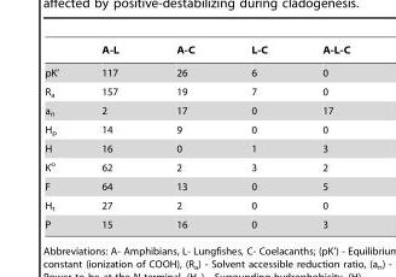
<table><thead><tr><td></td><td>A-L</td><td>A-C</td><td>L-C</td><td>A-L-C</td></tr></thead><tbody><tr><td>pK’</td><td>117</td><td>26</td><td>6</td><td>0</td></tr><tr><td>R<sub>a</sub></td><td>157</td><td>19</td><td>7</td><td>0</td></tr><tr><td>a<sub>n</sub></td><td>2</td><td>17</td><td>0</td><td>17</td></tr><tr><td>H<sub>p</sub></td><td>14</td><td>9</td><td>0</td><td>0</td></tr><tr><td>H</td><td>16</td><td>0</td><td>1</td><td>3</td></tr><tr><td>K<sup>o</sup></td><td>62</td><td>2</td><td>3</td><td>2</td></tr><tr><td>F</td><td>64</td><td>13</td><td>0</td><td>5</td></tr><tr><td>H<sub>t</sub></td><td>27</td><td>2</td><td>0</td><td>0</td></tr><tr><td>P</td><td>15</td><td>16</td><td>0</td><td>3</td></tr></tbody></table>